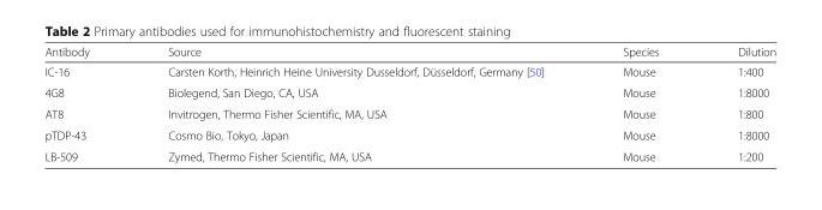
<table><thead><tr><td>Antibody</td><td>Source</td><td>Species</td><td>Dilution</td></tr></thead><tbody><tr><td>IC-16</td><td>Carsten Korth, Heinrich Heine University Dusseldorf, Düsseldorf, Germany [50]</td><td>Mouse</td><td>1:400</td></tr><tr><td>4G8</td><td>Biolegend, San Diego, CA, USA</td><td>Mouse</td><td>1:8000</td></tr><tr><td>AT8</td><td>Invitrogen, Thermo Fisher Scientific, MA, USA</td><td>Mouse</td><td>1:800</td></tr><tr><td>pTDP-43</td><td>Cosmo Bio, Tokyo, Japan</td><td>Mouse</td><td>1:8000</td></tr><tr><td>LB-509</td><td>Zymed, Thermo Fisher Scientific, MA, USA</td><td>Mouse</td><td>1:200</td></tr></tbody></table>